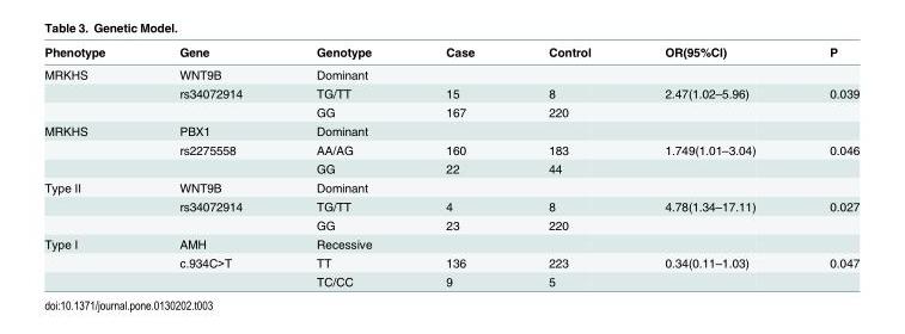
<table><thead><tr><td>Phenotype</td><td>Gene</td><td>Genotype</td><td>Case</td><td>Control</td><td>OR(95%CI)</td><td>P</td></tr></thead><tbody><tr><td rowspan="3">MRKHS</td><td>WNT9B</td><td>Dominant</td><td></td><td></td><td></td><td></td></tr><tr><td>rs34072914</td><td>TG/TT</td><td>15</td><td>8</td><td>2.47(1.02–5.96)</td><td>0.039</td></tr><tr><td></td><td>GG</td><td>167</td><td>220</td><td></td><td></td></tr><tr><td rowspan="3">MRKHS</td><td>PBX1</td><td>Dominant</td><td></td><td></td><td></td><td></td></tr><tr><td>rs2275558</td><td>AA/AG</td><td>160</td><td>183</td><td>1.749(1.01–3.04)</td><td>0.046</td></tr><tr><td></td><td>GG</td><td>22</td><td>44</td><td></td><td></td></tr><tr><td rowspan="3">Type II</td><td>WNT9B</td><td>Dominant</td><td></td><td></td><td></td><td></td></tr><tr><td>rs34072914</td><td>TG/TT</td><td>4</td><td>8</td><td>4.78(1.34–17.11)</td><td>0.027</td></tr><tr><td></td><td>GG</td><td>23</td><td>220</td><td></td><td></td></tr><tr><td rowspan="3">Type I</td><td>AMH</td><td>Recessive</td><td></td><td></td><td></td><td></td></tr><tr><td>c.934C&gt;T</td><td>TT</td><td>136</td><td>223</td><td>0.34(0.11–1.03)</td><td>0.047</td></tr><tr><td></td><td>TC/CC</td><td>9</td><td>5</td><td></td><td></td></tr></tbody></table>